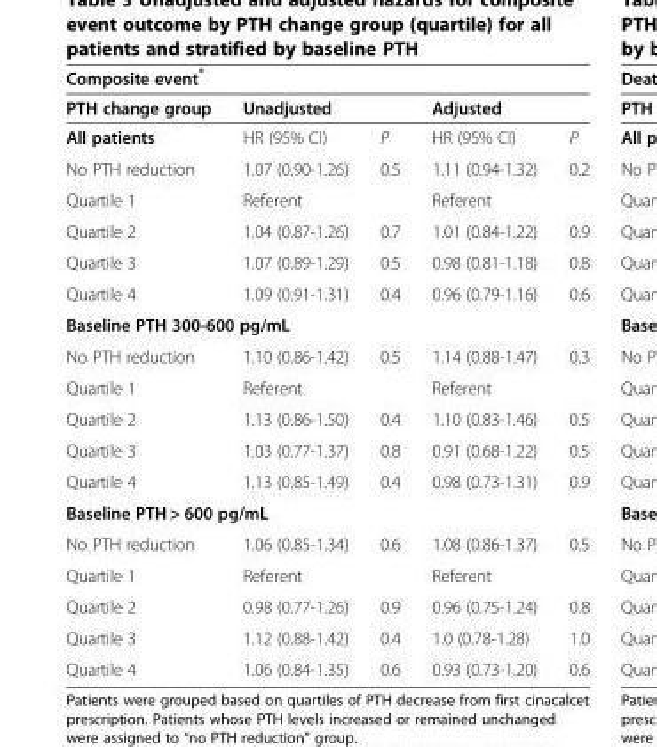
<table><thead><tr><td colspan="5">Composite event*</td></tr><tr><td rowspan="2">PTH change group All patients</td><td colspan="2">Unadjusted</td><td colspan="2">Adjusted</td></tr><tr><td>HR (95% CI)</td><td>P</td><td>HR (95% CI)</td><td>P</td></tr></thead><tbody><tr><td>No PTH reduction</td><td>1.07 (0.90-1.26)</td><td>0.5</td><td>1.11 (0.94-1.32)</td><td>0.2</td></tr><tr><td>Quartile 1</td><td>Referent</td><td></td><td>Referent</td><td></td></tr><tr><td>Quartile 2</td><td>1.04 (0.87-1.26)</td><td>0.7</td><td>1.01 (0.84-1.22)</td><td>0.9</td></tr><tr><td>Quartile 3</td><td>1.07 (0.89-1.29)</td><td>0.5</td><td>0.98 (0.81-1.18)</td><td>0.8</td></tr><tr><td>Quartile 4</td><td>1.09 (0.91-1.31)</td><td>0.4</td><td>0.96 (0.79-1.16)</td><td>0.6</td></tr><tr><td colspan="5">Baseline PTH 300-600 pg/mL</td></tr><tr><td>No PTH reduction</td><td>1.10 (0.86-1.42)</td><td>0.5</td><td>1.14 (0.88-1.47)</td><td>0.3</td></tr><tr><td>Quartile 1</td><td>Referent</td><td></td><td>Referent</td><td></td></tr><tr><td>Quartile 2</td><td>1.13 (0.86-1.50)</td><td>0.4</td><td>1.10 (0.83-1.46)</td><td>0.5</td></tr><tr><td>Quartile 3</td><td>1.03 (0.77-1.37)</td><td>0.8</td><td>0.91 (0.68-1.22)</td><td>0.5</td></tr><tr><td>Quartile 4</td><td>1.13 (0.85-1.49)</td><td>0.4</td><td>0.98 (0.73-1.31)</td><td>0.9</td></tr><tr><td colspan="5">Baseline PTH &gt; 600 pg/mL</td></tr><tr><td>No PTH reduction</td><td>1.06 (0.85-1.34)</td><td>0.6</td><td>1.08 (0.86-1.37)</td><td>0.5</td></tr><tr><td>Quartile 1</td><td>Referent</td><td></td><td>Referent</td><td></td></tr><tr><td>Quartile 2</td><td>0.98 (0.77-1.26)</td><td>0.9</td><td>0.96 (0.75-1.24)</td><td>0.8</td></tr><tr><td>Quartile 3</td><td>1.12 (0.88-1.42)</td><td>0.4</td><td>1.0 (0.78-1.28)</td><td>1.0</td></tr><tr><td>Quartile 4</td><td>1.06 (0.84-1.35)</td><td>0.6</td><td>0.93 (0.73-1.20)</td><td>0.6</td></tr></tbody></table>